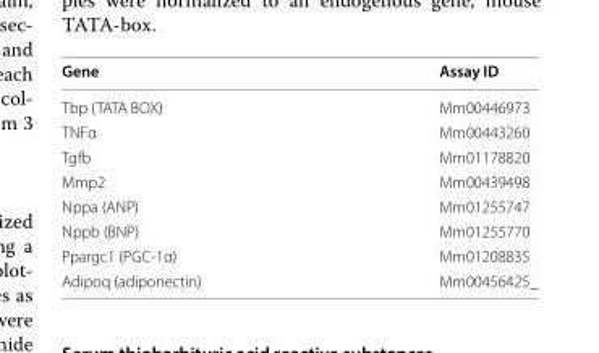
<table><thead><tr><td>Gene</td><td>Assay ID</td></tr></thead><tbody><tr><td>Tbp (TATA BOX)</td><td>Mm00446973</td></tr><tr><td>TNFα</td><td>Mm00443260</td></tr><tr><td>Tgfb</td><td>Mm01178820</td></tr><tr><td>Mmp2</td><td>Mm00439498</td></tr><tr><td>Nppa (ANP)</td><td>Mm01255747</td></tr><tr><td>Nppb (BNP)</td><td>Mm01255770</td></tr><tr><td>Ppargc1 (PGC‑1α)</td><td>Mm01208835</td></tr><tr><td>Adipoq (adiponectin)</td><td>Mm00456425_</td></tr></tbody></table>